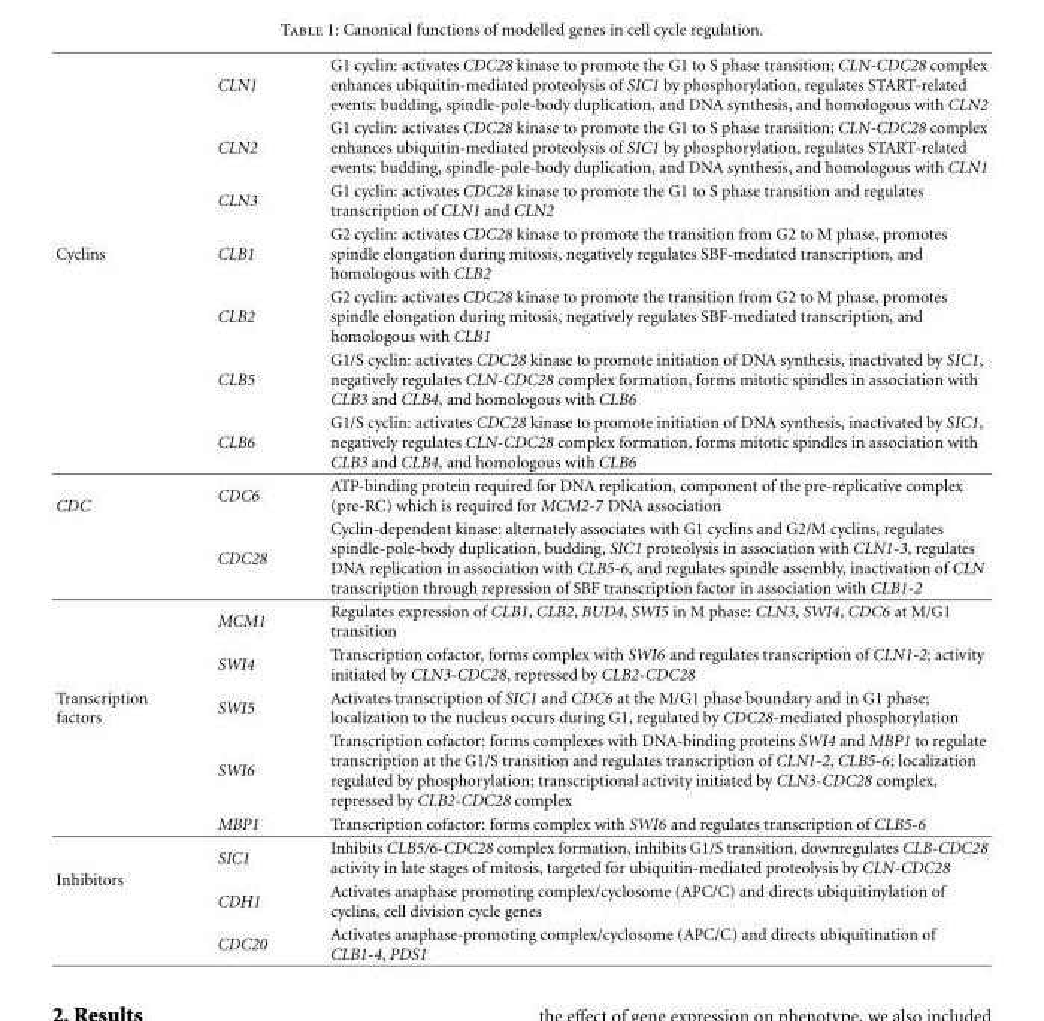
<table><thead><tr><td></td><td>CLN1</td><td>G1 cyclin: activates CDC28 kinase to promote the G1 to S phase transition; CLN-CDC28 complex enhances ubiquitin-mediated proteolysis of SIC1 by phosphorylation, regulates START-related events: budding, spindle-pole-body duplication, and DNA synthesis, and homologous with CLN2</td></tr></thead><tbody><tr><td></td><td>CLN2</td><td>G1 cyclin: activates CDC28 kinase to promote the G1 to S phase transition; CLN-CDC28 complex enhances ubiquitin-mediated proteolysis of SIC1 by phosphorylation, regulates START-related events: budding, spindle-pole-body duplication, and DNA synthesis, and homologous with CLN1</td></tr><tr><td></td><td>CLN3</td><td>G1 cyclin: activates CDC28 kinase to promote the G1 to S phase transition and regulates transcription of CLN1 and CLN2</td></tr><tr><td rowspan="4">Cyclins</td><td>CLB1</td><td>G2 cyclin: activates CDC28 kinase to promote the transition from G2 to M phase, promotes spindle elongation during mitosis, negatively regulates SBF-mediated transcription, and homologous with CLB2</td></tr><tr><td>CLB2</td><td>G2 cyclin: activates CDC28 kinase to promote the transition from G2 to M phase, promotes spindle elongation during mitosis, negatively regulates SBF-mediated transcription, and homologous with CLB1</td></tr><tr><td>CLB5</td><td>G1/S cyclin: activates CDC28 kinase to promote initiation of DNA synthesis, inactivated by SIC1, negatively regulates CLN-CDC28 complex formation, forms mitotic spindles in association with CLB3 and CLB4, and homologous with CLB6</td></tr><tr><td>CLB6</td><td>G1/S cyclin: activates CDC28 kinase to promote initiation of DNA synthesis, inactivated by SIC1, negatively regulates CLN-CDC28 complex formation, forms mitotic spindles in association with CLB3 and CLB4, and homologous with CLB6</td></tr><tr><td rowspan="4">CDC</td><td>CDC6</td><td>ATP-binding protein required for DNA replication, component of the pre-replicative complex (pre-RC) which is required for MCM2-7 DNA association</td></tr><tr><td>CDC28</td><td>Cyclin-dependent kinase: alternately associates with G1 cyclins and G2/M cyclins, regulates spindle-pole-body duplication, budding, SIC1 proteolysis in association with CLN1-3, regulates DNA replication in association with CLB5-6, and regulates spindle assembly, inactivation of CLN transcription through repression of SBF transcription factor in association with CLB1-2</td></tr><tr><td>MCM1</td><td>Regulates expression of CLB1, CLB2, BUD4, SWI5 in M phase: CLN3, SWI4, CDC6 at M/G1 transition</td></tr><tr><td>SWI4</td><td>Transcription cofactor, forms complex with SWI6 and regulates transcription of CLN1-2; activity initiated by CLN3-CDC28, repressed by CLB2-CDC28</td></tr><tr><td rowspan="3">Transcription factors</td><td>SWI5</td><td>Activates transcription of SIC1 and CDC6 at the M/G1 phase boundary and in G1 phase; localization to the nucleus occurs during G1, regulated by CDC28-mediated phosphorylation</td></tr><tr><td>SWI6</td><td>Transcription cofactor: forms complexes with DNA-binding proteins SWI4 and MBP1 to regulate transcription at the G1/S transition and regulates transcription of CLN1-2, CLB5-6; localization regulated by phosphorylation; transcriptional activity initiated by CLN3-CDC28 complex, repressed by CLB2-CDC28 complex</td></tr><tr><td>MBP1</td><td>Transcription cofactor: forms complex with SWI6 and regulates transcription of CLB5-6</td></tr><tr><td rowspan="3">Inhibitors</td><td>SIC1</td><td>Inhibits CLB5/6-CDC28 complex formation, inhibits G1/S transition, downregulates CLB-CDC28 activity in late stages of mitosis, targeted for ubiquitin-mediated proteolysis by CLN-CDC28</td></tr><tr><td>CDH1</td><td>Activates anaphase promoting complex/cyclosome (APC/C) and directs ubiquitinylation of cyclins, cell division cycle genes</td></tr><tr><td>CDC20</td><td>Activates anaphase-promoting complex/cyclosome (APC/C) and directs ubiquitination of CLB1-4, PDS1</td></tr></tbody></table>